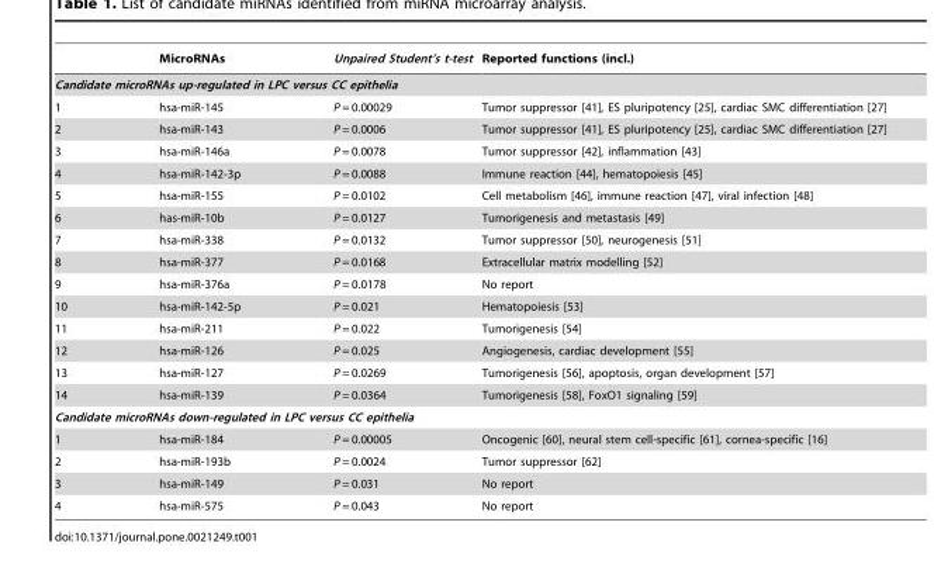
<table><thead><tr><td></td><td>MicroRNAs</td><td>Unpaired Student’s t-test</td><td>Reported functions (incl.)</td></tr></thead><tbody><tr><td colspan="4">Candidate microRNAs up-regulated in LPC versus CC epithelia</td></tr><tr><td>1</td><td>hsa-miR-145</td><td>P = 0.00029</td><td>Tumor suppressor [41], ES pluripotency [25], cardiac SMC differentiation [27]</td></tr><tr><td>2</td><td>hsa-miR-143</td><td>P = 0.0006</td><td>Tumor suppressor [41], ES pluripotency [25], cardiac SMC differentiation [27]</td></tr><tr><td>3</td><td>hsa-miR-146a</td><td>P = 0.0078</td><td>Tumor suppressor [42], inflammation [43]</td></tr><tr><td>4</td><td>hsa-miR-142-3p</td><td>P = 0.0088</td><td>Immune reaction [44], hematopoiesis [45]</td></tr><tr><td>5</td><td>hsa-miR-155</td><td>P = 0.0102</td><td>Cell metabolism [46], immune reaction [47], viral infection [48]</td></tr><tr><td>6</td><td>has-miR-10b</td><td>P = 0.0127</td><td>Tumorigenesis and metastasis [49]</td></tr><tr><td>7</td><td>hsa-miR-338</td><td>P = 0.0132</td><td>Tumor suppressor [50], neurogenesis [51]</td></tr><tr><td>8</td><td>hsa-miR-377</td><td>P = 0.0168</td><td>Extracellular matrix modelling [52]</td></tr><tr><td>9</td><td>hsa-miR-376a</td><td>P = 0.0178</td><td>No report</td></tr><tr><td>10</td><td>hsa-miR-142-5p</td><td>P = 0.021</td><td>Hematopoiesis [53]</td></tr><tr><td>11</td><td>hsa-miR-211</td><td>P = 0.022</td><td>Tumorigenesis [54]</td></tr><tr><td>12</td><td>hsa-miR-126</td><td>P = 0.025</td><td>Angiogenesis, cardiac development [55]</td></tr><tr><td>13</td><td>hsa-miR-127</td><td>P = 0.0269</td><td>Tumorigenesis [56], apoptosis, organ development [57]</td></tr><tr><td>14</td><td>hsa-miR-139</td><td>P = 0.0364</td><td>Tumorigenesis [58], FoxO1 signaling [59]</td></tr><tr><td colspan="4">Candidate microRNAs down-regulated in LPC versus CC epithelia</td></tr><tr><td>1</td><td>hsa-miR-184</td><td>P = 0.00005</td><td>Oncogenic [60], neural stem cell-specific [61], cornea-specific [16]</td></tr><tr><td>2</td><td>hsa-miR-193b</td><td>P = 0.0024</td><td>Tumor suppressor [62]</td></tr><tr><td>3</td><td>hsa-miR-149</td><td>P = 0.031</td><td>No report</td></tr><tr><td>4</td><td>hsa-miR-575</td><td>P = 0.043</td><td>No report</td></tr></tbody></table>